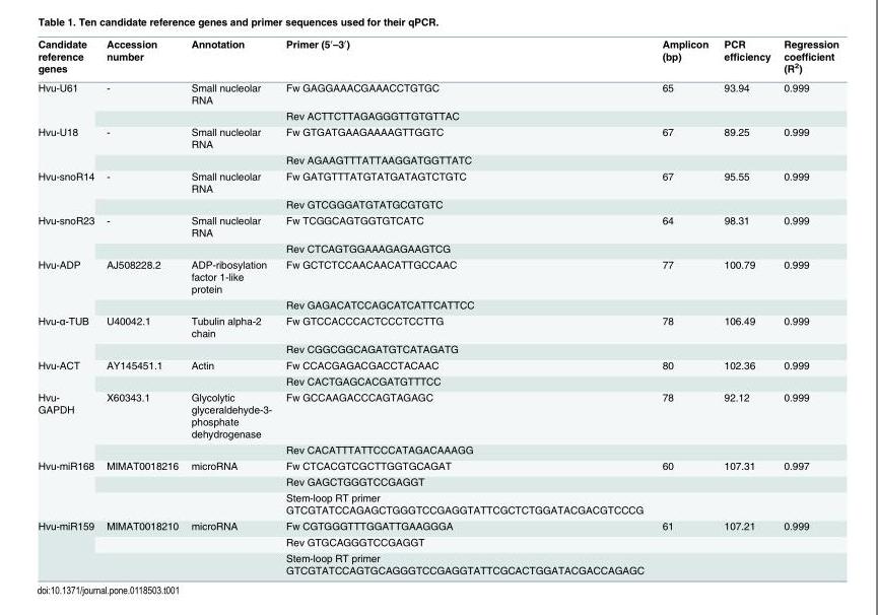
<table><thead><tr><td>Candidate reference genes</td><td>Accession number</td><td>Annotation</td><td>Primer (5′–3′)</td><td>Amplicon (bp)</td><td>PCR efficiency</td><td>Regression coefficient (R<sup>2</sup>)</td></tr></thead><tbody><tr><td rowspan="2">Hvu-U61</td><td>-</td><td>Small nucleolar RNA</td><td>Fw GAGGAAACGAAACCTGTGC</td><td>65</td><td>93.94</td><td>0.999</td></tr><tr><td></td><td></td><td>Rev ACTTCTTAGAGGGTTGTGTTAC</td><td></td><td></td><td></td></tr><tr><td rowspan="2">Hvu-U18</td><td>-</td><td>Small nucleolar RNA</td><td>Fw GTGATGAAGAAAAGTTGGTC</td><td>67</td><td>89.25</td><td>0.999</td></tr><tr><td></td><td></td><td>Rev AGAAGTTTATTAAGGATGGTTATC</td><td></td><td></td><td></td></tr><tr><td rowspan="2">Hvu-snoR14</td><td>-</td><td>Small nucleolar RNA</td><td>Fw GATGTTTATGTATGATAGTCTGTC</td><td>67</td><td>95.55</td><td>0.999</td></tr><tr><td></td><td></td><td>Rev GTCGGGATGTATGCGTGTC</td><td></td><td></td><td></td></tr><tr><td rowspan="2">Hvu-snoR23</td><td>-</td><td>Small nucleolar RNA</td><td>Fw TCGGCAGTGGTGTCATC</td><td>64</td><td>98.31</td><td>0.999</td></tr><tr><td></td><td></td><td>Rev CTCAGTGGAAAGAGAAGTCG</td><td></td><td></td><td></td></tr><tr><td rowspan="2">Hvu-ADP</td><td>AJ508228.2</td><td>ADP-ribosylation factor 1-like protein</td><td>Fw GCTCTCCAACAACATTGCCAAC</td><td>77</td><td>100.79</td><td>0.999</td></tr><tr><td></td><td></td><td>Rev GAGACATCCAGCATCATTCATTCC</td><td></td><td></td><td></td></tr><tr><td rowspan="2">Hvu-α-TUB</td><td>U40042.1</td><td>Tubulin alpha-2 chain</td><td>Fw GTCCACCCACTCCCTCCTTG</td><td>78</td><td>106.49</td><td>0.999</td></tr><tr><td></td><td></td><td>Rev CGGCGGCAGATGTCATAGATG</td><td></td><td></td><td></td></tr><tr><td rowspan="2">Hvu-ACT</td><td>AY145451.1</td><td>Actin</td><td>Fw CCACGAGACGACCTACAAC</td><td>80</td><td>102.36</td><td>0.999</td></tr><tr><td></td><td></td><td>Rev CACTGAGCACGATGTTTCC</td><td></td><td></td><td></td></tr><tr><td rowspan="2">Hvu- GAPDH</td><td>X60343.1</td><td>Glycolytic glyceraldehyde-3- phosphate dehydrogenase</td><td>Fw GCCAAGACCCAGTAGAGC</td><td>78</td><td>92.12</td><td>0.999</td></tr><tr><td></td><td></td><td>Rev CACATTTATTCCCATAGACAAAGG</td><td></td><td></td><td></td></tr><tr><td rowspan="3">Hvu-miR168</td><td>MIMAT0018216</td><td>microRNA</td><td>Fw CTCACGTCGCTTGGTGCAGAT</td><td>60</td><td>107.31</td><td>0.997</td></tr><tr><td></td><td></td><td>Rev GAGCTGGGTCCGAGGT</td><td></td><td></td><td></td></tr><tr><td></td><td></td><td>Stem-loop RT primer GTCGTATCCAGAGCTGGGTCCGAGGTATTCGCTCTGGATACGACGTCCCG</td><td></td><td></td><td></td></tr><tr><td rowspan="3">Hvu-miR159</td><td>MIMAT0018210</td><td>microRNA</td><td>Fw CGTGGGTTTGGATTGAAGGGA</td><td>61</td><td>107.21</td><td>0.999</td></tr><tr><td></td><td></td><td>Rev GTGCAGGGTCCGAGGT</td><td></td><td></td><td></td></tr><tr><td></td><td></td><td>Stem-loop RT primer GTCGTATCCAGTGCAGGGTCCGAGGTATTCGCACTGGATACGACCAGAGC</td><td></td><td></td><td></td></tr></tbody></table>